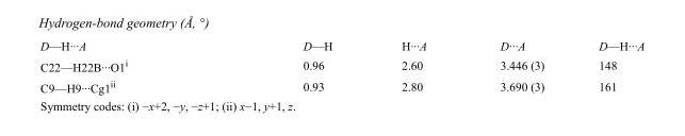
<table><tbody><tr><td>D—H···A</td><td>D—H</td><td>H···A</td><td>D···A</td><td>D—H···A</td></tr><tr><td>C22—H22B···O1<sup>i</sup></td><td>0.96</td><td>2.60</td><td>3.446 (3)</td><td>148</td></tr><tr><td>C9—H9···Cg1<sup>ii</sup></td><td>0.93</td><td>2.80</td><td>3.690 (3)</td><td>161</td></tr></tbody></table>